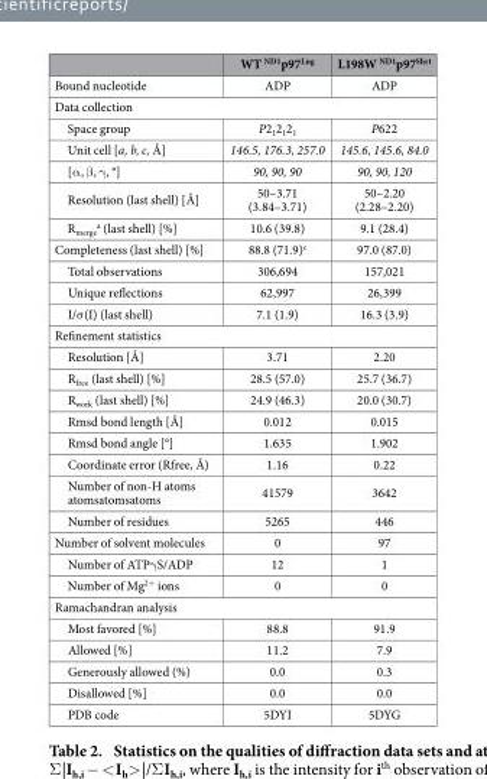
<table><thead><tr><td></td><td>WT <sup>ND1</sup>p97<sup>Lng</sup></td><td>L198W <sup>ND1</sup>p97<sup>Shrt</sup></td></tr></thead><tbody><tr><td>Bound nucleotide</td><td>ADP</td><td>ADP</td></tr><tr><td colspan="3">Data collection</td></tr><tr><td>Space group</td><td>P2<sub>1</sub>2<sub>1</sub>2<sub>1</sub></td><td>P622</td></tr><tr><td>Unit cell [a, b, c, Å]</td><td>146.5, 176.3, 257.0</td><td>145.6, 145.6, 84.0</td></tr><tr><td>[α , β , γ , °]</td><td>90, 90, 90</td><td>90, 90, 120</td></tr><tr><td>Resolution (last shell) [Å]</td><td>50–3.71 (3.84–3.71)</td><td>50–2.20 (2.28–2.20)</td></tr><tr><td>R<sub>merge</sub> <sup>a</sup> (last shell) [%]</td><td>10.6 (39.8)</td><td>9.1 (28.4)</td></tr><tr><td>Completeness (last shell) [%]</td><td>88.8 (71.9)<sup>c</sup></td><td>97.0 (87.0)</td></tr><tr><td>Total observations</td><td>306,694</td><td>157,021</td></tr><tr><td>Unique reflections</td><td>62,997</td><td>26,399</td></tr><tr><td>I/σ (I) (last shell)</td><td>7.1 (1.9)</td><td>16.3 (3.9)</td></tr><tr><td colspan="3">Refinement statistics</td></tr><tr><td>Resolution [Å]</td><td>3.71</td><td>2.20</td></tr><tr><td>R<sub>free</sub> (last shell) [%]</td><td>28.5 (57.0)</td><td>25.7 (36.7)</td></tr><tr><td>R<sub>work</sub> (last shell) [%]</td><td>24.9 (46.3)</td><td>20.0 (30.7)</td></tr><tr><td>Rmsd bond length [Å]</td><td>0.012</td><td>0.015</td></tr><tr><td>Rmsd bond angle [°]</td><td>1.635</td><td>1.902</td></tr><tr><td>Coordinate error (Rfree, Å)</td><td>1.16</td><td>0.22</td></tr><tr><td>Number of non-H atoms atomsatomsatoms</td><td>41579</td><td>3642</td></tr><tr><td>Number of residues</td><td>5265</td><td>446</td></tr><tr><td>Number of solvent molecules</td><td>0</td><td>97</td></tr><tr><td>Number of ATPγ S/ADP</td><td>12</td><td>1</td></tr><tr><td>Number of Mg<sup>2+</sup> ions</td><td>0</td><td>0</td></tr><tr><td colspan="3">Ramachandran analysis</td></tr><tr><td>Most favored [%]</td><td>88.8</td><td>91.9</td></tr><tr><td>Allowed [%]</td><td>11.2</td><td>7.9</td></tr><tr><td>Generously allowed (%)</td><td>0.0</td><td>0.3</td></tr><tr><td>Disallowed [%]</td><td>0.0</td><td>0.0</td></tr><tr><td>PDB code</td><td>5DYI</td><td>5DYG</td></tr></tbody></table>